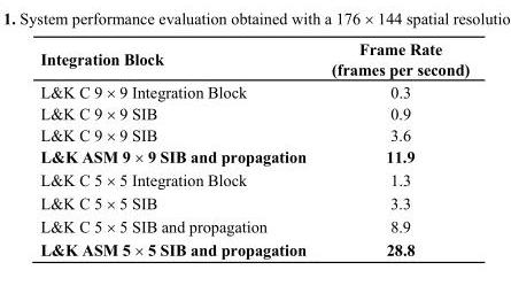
<table><thead><tr><td>Integration Block</td><td>Frame Rate (frames per second)</td></tr></thead><tbody><tr><td>L&amp;K C 9 × 9 Integration Block</td><td>0.3</td></tr><tr><td>L&amp;K C 9 × 9 SIB</td><td>0.9</td></tr><tr><td>L&amp;K C 9 × 9 SIB</td><td>3.6</td></tr><tr><td>L&amp;K ASM 9 × 9 SIB and propagation</td><td>11.9</td></tr><tr><td>L&amp;K C 5 × 5 Integration Block</td><td>1.3</td></tr><tr><td>L&amp;K C 5 × 5 SIB</td><td>3.3</td></tr><tr><td>L&amp;K C 5 × 5 SIB and propagation</td><td>8.9</td></tr><tr><td>L&amp;K ASM 5 × 5 SIB and propagation</td><td>28.8</td></tr></tbody></table>